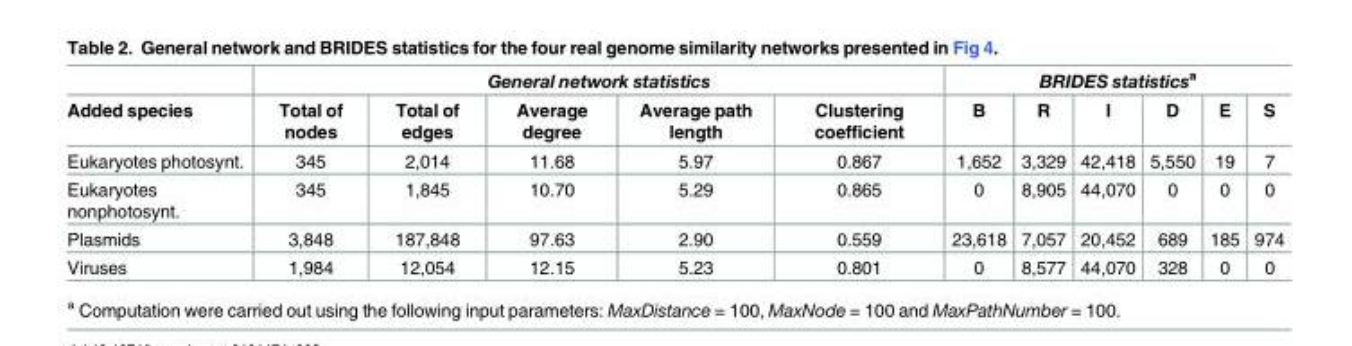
<table><thead><tr><td rowspan="2">Added species</td><td colspan="5">General network statistics</td><td colspan="6">BRIDES statistics<sup>a</sup></td></tr><tr><td>Total of nodes</td><td>Total of edges</td><td>Average degree</td><td>Average path length</td><td>Clustering coefficient</td><td>B</td><td>R</td><td>I</td><td>D</td><td>E</td><td>S</td></tr></thead><tbody><tr><td>Eukaryotes photosynt.</td><td>345</td><td>2,014</td><td>11.68</td><td>5.97</td><td>0.867</td><td>1,652</td><td>3,329</td><td>42,418</td><td>5,550</td><td>19</td><td>7</td></tr><tr><td>Eukaryotes nonphotosynt.</td><td>345</td><td>1,845</td><td>10.70</td><td>5.29</td><td>0.865</td><td>0</td><td>8,905</td><td>44,070</td><td>0</td><td>0</td><td>0</td></tr><tr><td>Plasmids</td><td>3,848</td><td>187,848</td><td>97.63</td><td>2.90</td><td>0.559</td><td>23,618</td><td>7,057</td><td>20,452</td><td>689</td><td>185</td><td>974</td></tr><tr><td>Viruses</td><td>1,984</td><td>12,054</td><td>12.15</td><td>5.23</td><td>0.801</td><td>0</td><td>8,577</td><td>44,070</td><td>328</td><td>0</td><td>0</td></tr></tbody></table>